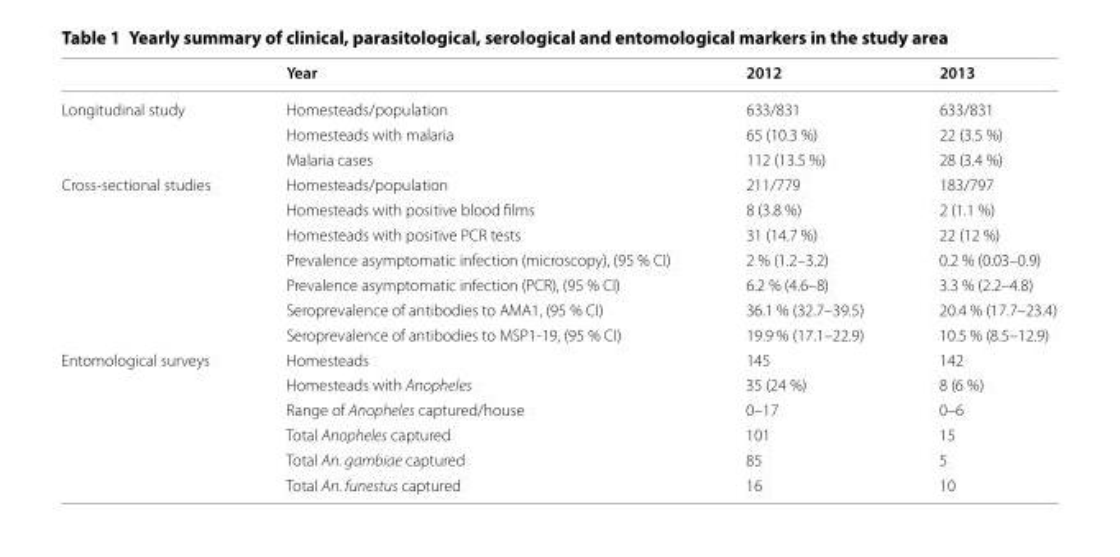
<table><thead><tr><td></td><td>Year</td><td>2012</td><td>2013</td></tr></thead><tbody><tr><td rowspan="3">Longitudinal study</td><td>Homesteads/population</td><td>633/831</td><td>633/831</td></tr><tr><td>Homesteads with malaria</td><td>65 (10.3 %)</td><td>22 (3.5 %)</td></tr><tr><td>Malaria cases</td><td>112 (13.5 %)</td><td>28 (3.4 %)</td></tr><tr><td rowspan="7">Cross-sectional studies</td><td>Homesteads/population</td><td>211/779</td><td>183/797</td></tr><tr><td>Homesteads with positive blood films</td><td>8 (3.8 %)</td><td>2 (1.1 %)</td></tr><tr><td>Homesteads with positive PCR tests</td><td>31 (14.7 %)</td><td>22 (12 %)</td></tr><tr><td>Prevalence asymptomatic infection (microscopy), (95 % CI)</td><td>2 % (1.2–3.2)</td><td>0.2 % (0.03–0.9)</td></tr><tr><td>Prevalence asymptomatic infection (PCR), (95 % CI)</td><td>6.2 % (4.6–8)</td><td>3.3 % (2.2–4.8)</td></tr><tr><td>Seroprevalence of antibodies to AMA1, (95 % CI)</td><td>36.1 % (32.7–39.5)</td><td>20.4 % (17.7–23.4)</td></tr><tr><td>Seroprevalence of antibodies to MSP1-19, (95 % CI)</td><td>19.9 % (17.1–22.9)</td><td>10.5 % (8.5–12.9)</td></tr><tr><td rowspan="6">Entomological surveys</td><td>Homesteads</td><td>145</td><td>142</td></tr><tr><td>Homesteads with Anopheles</td><td>35 (24 %)</td><td>8 (6 %)</td></tr><tr><td>Range of Anopheles captured/house</td><td>0–17</td><td>0–6</td></tr><tr><td>Total Anopheles captured</td><td>101</td><td>15</td></tr><tr><td>Total An. gambiae captured</td><td>85</td><td>5</td></tr><tr><td>Total An. funestus captured</td><td>16</td><td>10</td></tr></tbody></table>